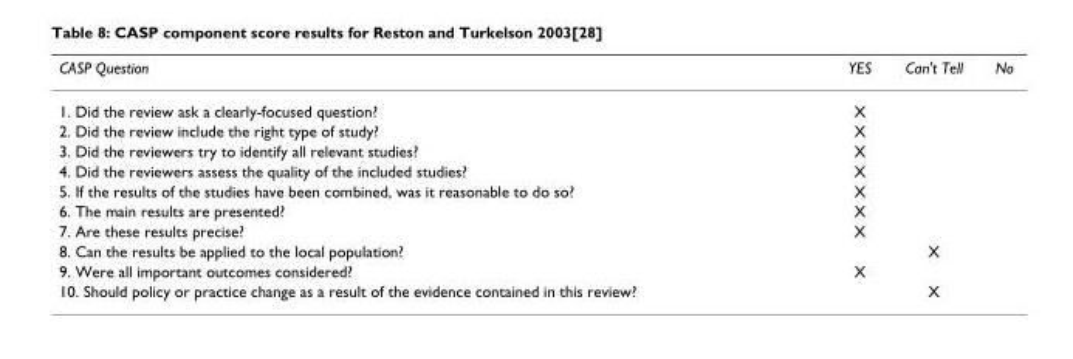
<table><thead><tr><td>CASP Question</td><td>YES</td><td>Can&#x27;t Tell</td><td>No</td></tr></thead><tbody><tr><td>1. Did the review ask a clearly-focused question?</td><td>X</td><td></td><td></td></tr><tr><td>2. Did the review include the right type of study?</td><td>X</td><td></td><td></td></tr><tr><td>3. Did the reviewers try to identify all relevant studies?</td><td>X</td><td></td><td></td></tr><tr><td>4. Did the reviewers assess the quality of the included studies?</td><td>X</td><td></td><td></td></tr><tr><td>5. If the results of the studies have been combined, was it reasonable to do so?</td><td>X</td><td></td><td></td></tr><tr><td>6. The main results are presented?</td><td>X</td><td></td><td></td></tr><tr><td>7. Are these results precise?</td><td>X</td><td></td><td></td></tr><tr><td>8. Can the results be applied to the local population?</td><td></td><td>X</td><td></td></tr><tr><td>9. Were all important outcomes considered?</td><td>X</td><td></td><td></td></tr><tr><td>10. Should policy or practice change as a result of the evidence contained in this review?</td><td></td><td>X</td><td></td></tr></tbody></table>